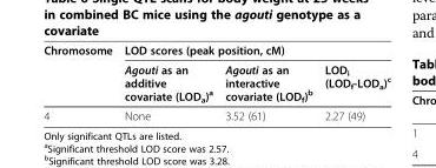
<table><thead><tr><td rowspan="2">Chromosome</td><td colspan="3">LOD scores (peak position, cM)</td></tr><tr><td>Agouti as an additive covariate (LOD<sub>a</sub>)<sup>a</sup></td><td>Agouti as an interactive covariate (LOD<sub>f</sub>)<sup>b</sup></td><td>LOD<sub>i</sub> (LOD<sub>f</sub>-LOD<sub>a</sub>)<sup>c</sup></td></tr></thead><tbody><tr><td>4</td><td>None</td><td>3.52 (61)</td><td>2.27 (49)</td></tr></tbody></table>